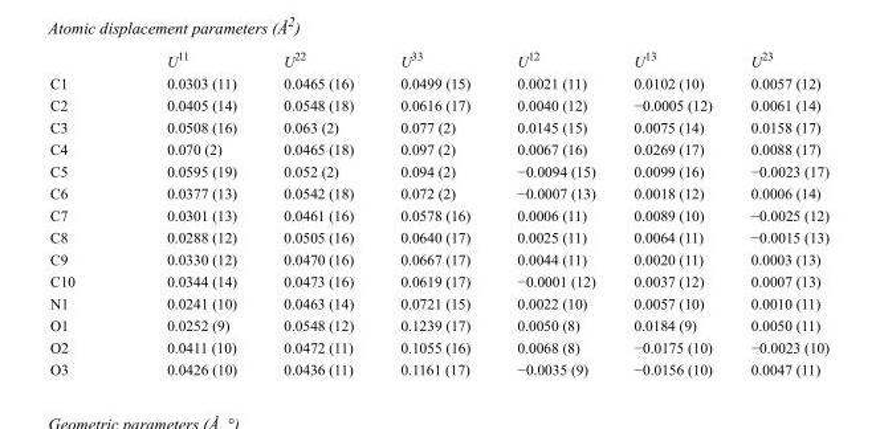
<table><thead><tr><td></td><td>U<sup>11</sup></td><td>U<sup>22</sup></td><td>U<sup>33</sup></td><td>U<sup>12</sup></td><td>U<sup>13</sup></td><td>U<sup>23</sup></td></tr></thead><tbody><tr><td>C1</td><td>0.0303 (11)</td><td>0.0465 (16)</td><td>0.0499 (15)</td><td>0.0021 (11)</td><td>0.0102 (10)</td><td>0.0057 (12)</td></tr><tr><td>C2</td><td>0.0405 (14)</td><td>0.0548 (18)</td><td>0.0616 (17)</td><td>0.0040 (12)</td><td>−0.0005 (12)</td><td>0.0061 (14)</td></tr><tr><td>C3</td><td>0.0508 (16)</td><td>0.063 (2)</td><td>0.077 (2)</td><td>0.0145 (15)</td><td>0.0075 (14)</td><td>0.0158 (17)</td></tr><tr><td>C4</td><td>0.070 (2)</td><td>0.0465 (18)</td><td>0.097 (2)</td><td>0.0067 (16)</td><td>0.0269 (17)</td><td>0.0088 (17)</td></tr><tr><td>C5</td><td>0.0595 (19)</td><td>0.052 (2)</td><td>0.094 (2)</td><td>−0.0094 (15)</td><td>0.0099 (16)</td><td>−0.0023 (17)</td></tr><tr><td>C6</td><td>0.0377 (13)</td><td>0.0542 (18)</td><td>0.072 (2)</td><td>−0.0007 (13)</td><td>0.0018 (12)</td><td>0.0006 (14)</td></tr><tr><td>C7</td><td>0.0301 (13)</td><td>0.0461 (16)</td><td>0.0578 (16)</td><td>0.0006 (11)</td><td>0.0089 (10)</td><td>−0.0025 (12)</td></tr><tr><td>C8</td><td>0.0288 (12)</td><td>0.0505 (16)</td><td>0.0640 (17)</td><td>0.0025 (11)</td><td>0.0064 (11)</td><td>−0.0015 (13)</td></tr><tr><td>C9</td><td>0.0330 (12)</td><td>0.0470 (16)</td><td>0.0667 (17)</td><td>0.0044 (11)</td><td>0.0020 (11)</td><td>0.0003 (13)</td></tr><tr><td>C10</td><td>0.0344 (14)</td><td>0.0473 (16)</td><td>0.0619 (17)</td><td>−0.0001 (12)</td><td>0.0037 (12)</td><td>0.0007 (13)</td></tr><tr><td>N1</td><td>0.0241 (10)</td><td>0.0463 (14)</td><td>0.0721 (15)</td><td>0.0022 (10)</td><td>0.0057 (10)</td><td>0.0010 (11)</td></tr><tr><td>O1</td><td>0.0252 (9)</td><td>0.0548 (12)</td><td>0.1239 (17)</td><td>0.0050 (8)</td><td>0.0184 (9)</td><td>0.0050 (11)</td></tr><tr><td>O2</td><td>0.0411 (10)</td><td>0.0472 (11)</td><td>0.1055 (16)</td><td>0.0068 (8)</td><td>−0.0175 (10)</td><td>−0.0023 (10)</td></tr><tr><td>O3</td><td>0.0426 (10)</td><td>0.0436 (11)</td><td>0.1161 (17)</td><td>−0.0035 (9)</td><td>−0.0156 (10)</td><td>0.0047 (11)</td></tr></tbody></table>